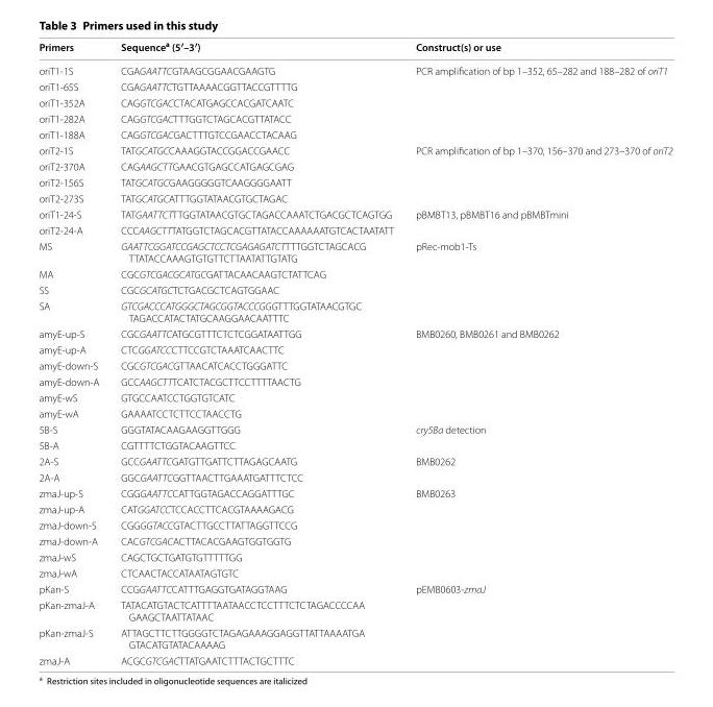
<table><thead><tr><td>Primers</td><td>Sequence<sup>a</sup> (5′–3′)</td><td>Construct(s) or use</td></tr></thead><tbody><tr><td>oriT1-1S</td><td>CGAGAATTCGTAAGCGGAACGAAGTG</td><td rowspan="5">PCR amplification of bp 1–352, 65–282 and 188–282 of oriT1</td></tr><tr><td>oriT1-65S</td><td>CGAGAATTCTGTTAAAACGGTTACCGTTTTG</td></tr><tr><td>oriT1-352A</td><td>CAGGTCGACCTACATGAGCCACGATCAATC</td></tr><tr><td>oriT1-282A</td><td>CAGGTCGACTTTGGTCTAGCACGTTATACC</td></tr><tr><td>oriT1-188A</td><td>CAGGTCGACGACTTTGTCCGAACCTACAAG</td></tr><tr><td>oriT2-1S</td><td>TATGCATGCCAAAGGTACCGGACCGAACC</td><td rowspan="4">PCR amplification of bp 1–370, 156–370 and 273–370 of oriT2</td></tr><tr><td>oriT2-370A</td><td>CAGAAGCTTGAACGTGAGCCATGAGCGAG</td></tr><tr><td>oriT2-156S</td><td>TATGCATGCGAAGGGGGTCAAGGGGAATT</td></tr><tr><td>oriT2-273S</td><td>TATGCATGCATTTGGTATAACGTGCTAGAC</td></tr><tr><td>oriT1-24-S</td><td>TATGAATTCTTTGGTATAACGTGCTAGACCAAATCTGACGCTCAGTGG</td><td rowspan="2">pBMBT13, pBMBT16 and pBMBTmini</td></tr><tr><td>oriT2-24-A</td><td>CCCAAGCTTTATGGTCTAGCACGTTATACCAAAAAATGTCACTAATATT</td></tr><tr><td>MS</td><td>GAATTCGGATCCGAGCTCCTCGAGAGATCTTTTGGTCTAGCACG TTATACCAAAGTGTGTTCTTAATATTGTATG</td><td rowspan="4">pRec-mob1-Ts</td></tr><tr><td>MA</td><td>CGCGTCGACGCATGCGATTACAACAAGTCTATTCAG</td></tr><tr><td>SS</td><td>CGCGCATGCTCTGACGCTCAGTGGAAC</td></tr><tr><td>SA</td><td>GTCGACCCATGGGCTAGCGGTACCCGGGTTTGGTATAACGTGC TAGACCATACTATGCAAGGAACAATTTC</td></tr><tr><td>amyE-up-S</td><td>CGCGAATTCATGCGTTTCTCTCGGATAATTGG</td><td rowspan="6">BMB0260, BMB0261 and BMB0262</td></tr><tr><td>amyE-up-A</td><td>CTCGGATCCCTTCCGTCTAAATCAACTTC</td></tr><tr><td>amyE-down-S</td><td>CGCGTCGACGTTAACATCACCTGGGATTC</td></tr><tr><td>amyE-down-A</td><td>GCCAAGCTTTCATCTACGCTTCCTTTTAACTG</td></tr><tr><td>amyE-wS</td><td>GTGCCAATCCTGGTGTCATC</td></tr><tr><td>amyE-wA</td><td>GAAAATCCTCTTCCTAACCTG</td></tr><tr><td>5B-S</td><td>GGGTATACAAGAAGGTTGGG</td><td rowspan="2">cry5Ba detection</td></tr><tr><td>5B-A</td><td>CGTTTTCTGGTACAAGTTCC</td></tr><tr><td>2A-S</td><td>GCCGAATTCGATGTTGATTCTTAGAGCAATG</td><td rowspan="2">BMB0262</td></tr><tr><td>2A-A</td><td>GGCGAATTCGGTTAACTTGAAATGATTTCTCC</td></tr><tr><td>zmaJ-up-S</td><td>CGGGAATTCCATTGGTAGACCAGGATTTGC</td><td rowspan="6">BMB0263</td></tr><tr><td>zmaJ-up-A</td><td>CATGGATCCTCCACCTTCACGTAAAAGACG</td></tr><tr><td>zmaJ-down-S</td><td>CGGGGTACCGTACTTGCCTTATTAGGTTCCG</td></tr><tr><td>zmaJ-down-A</td><td>CACGTCGACACTTACACGAAGTGGTGGTG</td></tr><tr><td>zmaJ-wS</td><td>CAGCTGCTGATGTGTTTTTGG</td></tr><tr><td>zmaJ-wA</td><td>CTCAACTACCATAATAGTGTC</td></tr><tr><td>pKan-S</td><td>CCGGAATTCCATTTGAGGTGATAGGTAAG</td><td rowspan="4">pEMB0603-zmaJ</td></tr><tr><td>pKan-zmaJ-A</td><td>TATACATGTACTCATTTTAATAACCTCCTTTCTCTAGACCCCAA GAAGCTAATTATAAC</td></tr><tr><td>pKan-zmaJ-S</td><td>ATTAGCTTCTTGGGGTCTAGAGAAAGGAGGTTATTAAAATGA GTACATGTATACAAAAG</td></tr><tr><td>zmaJ-A</td><td>ACGCGTCGACTTATGAATCTTTACTGCTTTC</td></tr></tbody></table>